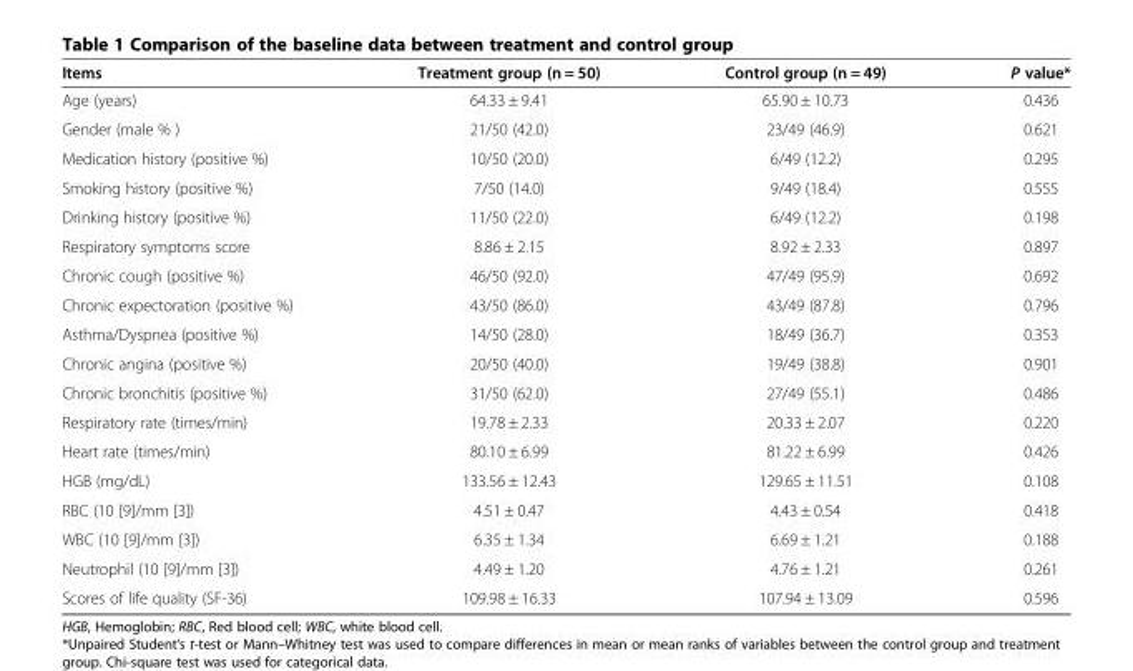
<table><thead><tr><td>Items</td><td>Treatment group (n = 50)</td><td>Control group (n = 49)</td><td>P value*</td></tr></thead><tbody><tr><td>Age (years)</td><td>64.33 ± 9.41</td><td>65.90 ± 10.73</td><td>0.436</td></tr><tr><td>Gender (male % )</td><td>21/50 (42.0)</td><td>23/49 (46.9)</td><td>0.621</td></tr><tr><td>Medication history (positive %)</td><td>10/50 (20.0)</td><td>6/49 (12.2)</td><td>0.295</td></tr><tr><td>Smoking history (positive %)</td><td>7/50 (14.0)</td><td>9/49 (18.4)</td><td>0.555</td></tr><tr><td>Drinking history (positive %)</td><td>11/50 (22.0)</td><td>6/49 (12.2)</td><td>0.198</td></tr><tr><td>Respiratory symptoms score</td><td>8.86 ± 2.15</td><td>8.92 ± 2.33</td><td>0.897</td></tr><tr><td>Chronic cough (positive %)</td><td>46/50 (92.0)</td><td>47/49 (95.9)</td><td>0.692</td></tr><tr><td>Chronic expectoration (positive %)</td><td>43/50 (86.0)</td><td>43/49 (87.8)</td><td>0.796</td></tr><tr><td>Asthma/Dyspnea (positive %)</td><td>14/50 (28.0)</td><td>18/49 (36.7)</td><td>0.353</td></tr><tr><td>Chronic angina (positive %)</td><td>20/50 (40.0)</td><td>19/49 (38.8)</td><td>0.901</td></tr><tr><td>Chronic bronchitis (positive %)</td><td>31/50 (62.0)</td><td>27/49 (55.1)</td><td>0.486</td></tr><tr><td>Respiratory rate (times/min)</td><td>19.78 ± 2.33</td><td>20.33 ± 2.07</td><td>0.220</td></tr><tr><td>Heart rate (times/min)</td><td>80.10 ± 6.99</td><td>81.22 ± 6.99</td><td>0.426</td></tr><tr><td>HGB (mg/dL)</td><td>133.56 ± 12.43</td><td>129.65 ± 11.51</td><td>0.108</td></tr><tr><td>RBC (10 [9]/mm [3])</td><td>4.51 ± 0.47</td><td>4.43 ± 0.54</td><td>0.418</td></tr><tr><td>WBC (10 [9]/mm [3])</td><td>6.35 ± 1.34</td><td>6.69 ± 1.21</td><td>0.188</td></tr><tr><td>Neutrophil (10 [9]/mm [3])</td><td>4.49 ± 1.20</td><td>4.76 ± 1.21</td><td>0.261</td></tr><tr><td>Scores of life quality (SF-36)</td><td>109.98 ± 16.33</td><td>107.94 ± 13.09</td><td>0.596</td></tr></tbody></table>